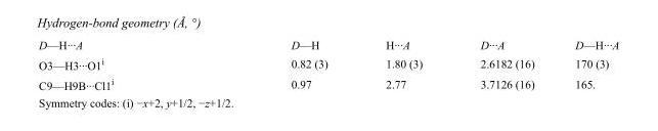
<table><tbody><tr><td>D—H···A</td><td>D—H</td><td>H···A</td><td>D···A</td><td>D—H···A</td></tr><tr><td>O3—H3···O1<sup>i</sup></td><td>0.82 (3)</td><td>1.80 (3)</td><td>2.6182 (16)</td><td>170 (3)</td></tr><tr><td>C9—H9B···Cl1<sup>i</sup></td><td>0.97</td><td>2.77</td><td>3.7126 (16)</td><td>165.</td></tr></tbody></table>